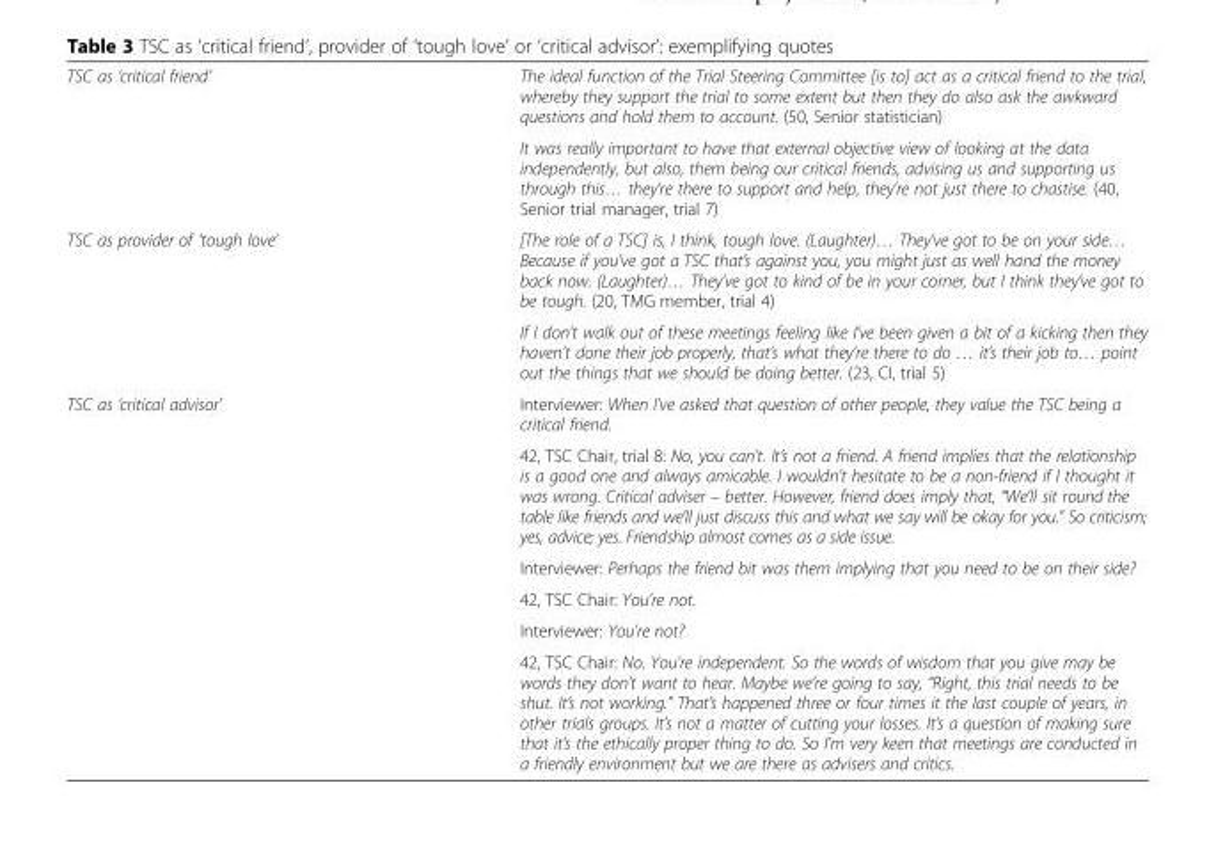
<table><tbody><tr><td rowspan="2">TSC as ‘critical friend’</td><td>The ideal function of the Trial Steering Committee [is to] act as a critical friend to the trial, whereby they support the trial to some extent but then they do also ask the awkward questions and hold them to account. (50, Senior statistician)</td></tr><tr><td>It was really important to have that external objective view of looking at the data independently, but also, them being our critical friends, advising us and supporting us through this… they’re there to support and help, they’re not just there to chastise. (40, Senior trial manager, trial 7)</td></tr><tr><td rowspan="2">TSC as provider of ‘tough love’</td><td>[The role of a TSC] is, I think, tough love. (Laughter)… They’ve got to be on your side… Because if you’ve got a TSC that’s against you, you might just as well hand the money back now. (Laughter)… They’ve got to kind of be in your corner, but I think they&#x27;ve got to be tough. (20, TMG member, trial 4)</td></tr><tr><td>If I don’t walk out of these meetings feeling like I’ve been given a bit of a kicking then they haven’t done their job properly, that’s what they’re there to do … it’s their job to… point out the things that we should be doing better. (23, CI, trial 5)</td></tr><tr><td rowspan="6">TSC as ‘critical advisor’</td><td>Interviewer: When I’ve asked that question of other people, they value the TSC being a critical friend.</td></tr><tr><td>42, TSC Chair, trial 8: No, you can’t. It’s not a friend. A friend implies that the relationship is a good one and always amicable. I wouldn’t hesitate to be a non-friend if I thought it was wrong. Critical adviser – better. However, friend does imply that, “We’ll sit round the table like friends and we’ll just discuss this and what we say will be okay for you.” So criticism; yes, advice; yes. Friendship almost comes as a side issue.</td></tr><tr><td>Interviewer: Perhaps the friend bit was them implying that you need to be on their side?</td></tr><tr><td>42, TSC Chair: You’re not.</td></tr><tr><td>Interviewer: You’re not?</td></tr><tr><td>42, TSC Chair: No. You’re independent. So the words of wisdom that you give may be words they don’t want to hear. Maybe we’re going to say, “Right, this trial needs to be shut. It’s not working.” That’s happened three or four times it the last couple of years, in other trials groups. It’s not a matter of cutting your losses. It’s a question of making sure that it’s the ethically proper thing to do. So I’m very keen that meetings are conducted in a friendly environment but we are there as advisers and critics.</td></tr></tbody></table>